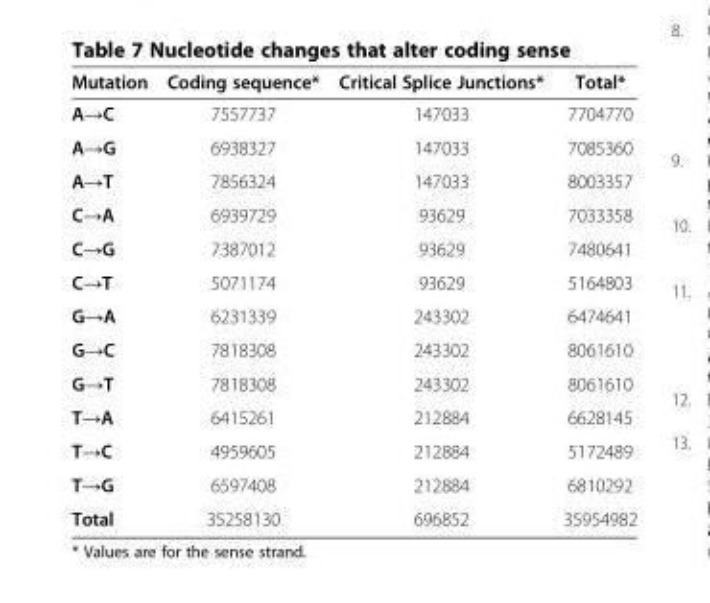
<table><thead><tr><td>Mutation</td><td>Coding sequence*</td><td>Critical Splice Junctions*</td><td>Total*</td></tr></thead><tbody><tr><td>A→C</td><td>7557737</td><td>147033</td><td>7704770</td></tr><tr><td>A→G</td><td>6938327</td><td>147033</td><td>7085360</td></tr><tr><td>A→T</td><td>7856324</td><td>147033</td><td>8003357</td></tr><tr><td>C→A</td><td>6939729</td><td>93629</td><td>7033358</td></tr><tr><td>C→G</td><td>7387012</td><td>93629</td><td>7480641</td></tr><tr><td>C→T</td><td>5071174</td><td>93629</td><td>5164803</td></tr><tr><td>G→A</td><td>6231339</td><td>243302</td><td>6474641</td></tr><tr><td>G→C</td><td>7818308</td><td>243302</td><td>8061610</td></tr><tr><td>G→T</td><td>7818308</td><td>243302</td><td>8061610</td></tr><tr><td>T→A</td><td>6415261</td><td>212884</td><td>6628145</td></tr><tr><td>T→C</td><td>4959605</td><td>212884</td><td>5172489</td></tr><tr><td>T→G</td><td>6597408</td><td>212884</td><td>6810292</td></tr><tr><td>Total</td><td>35258130</td><td>696852</td><td>35954982</td></tr></tbody></table>